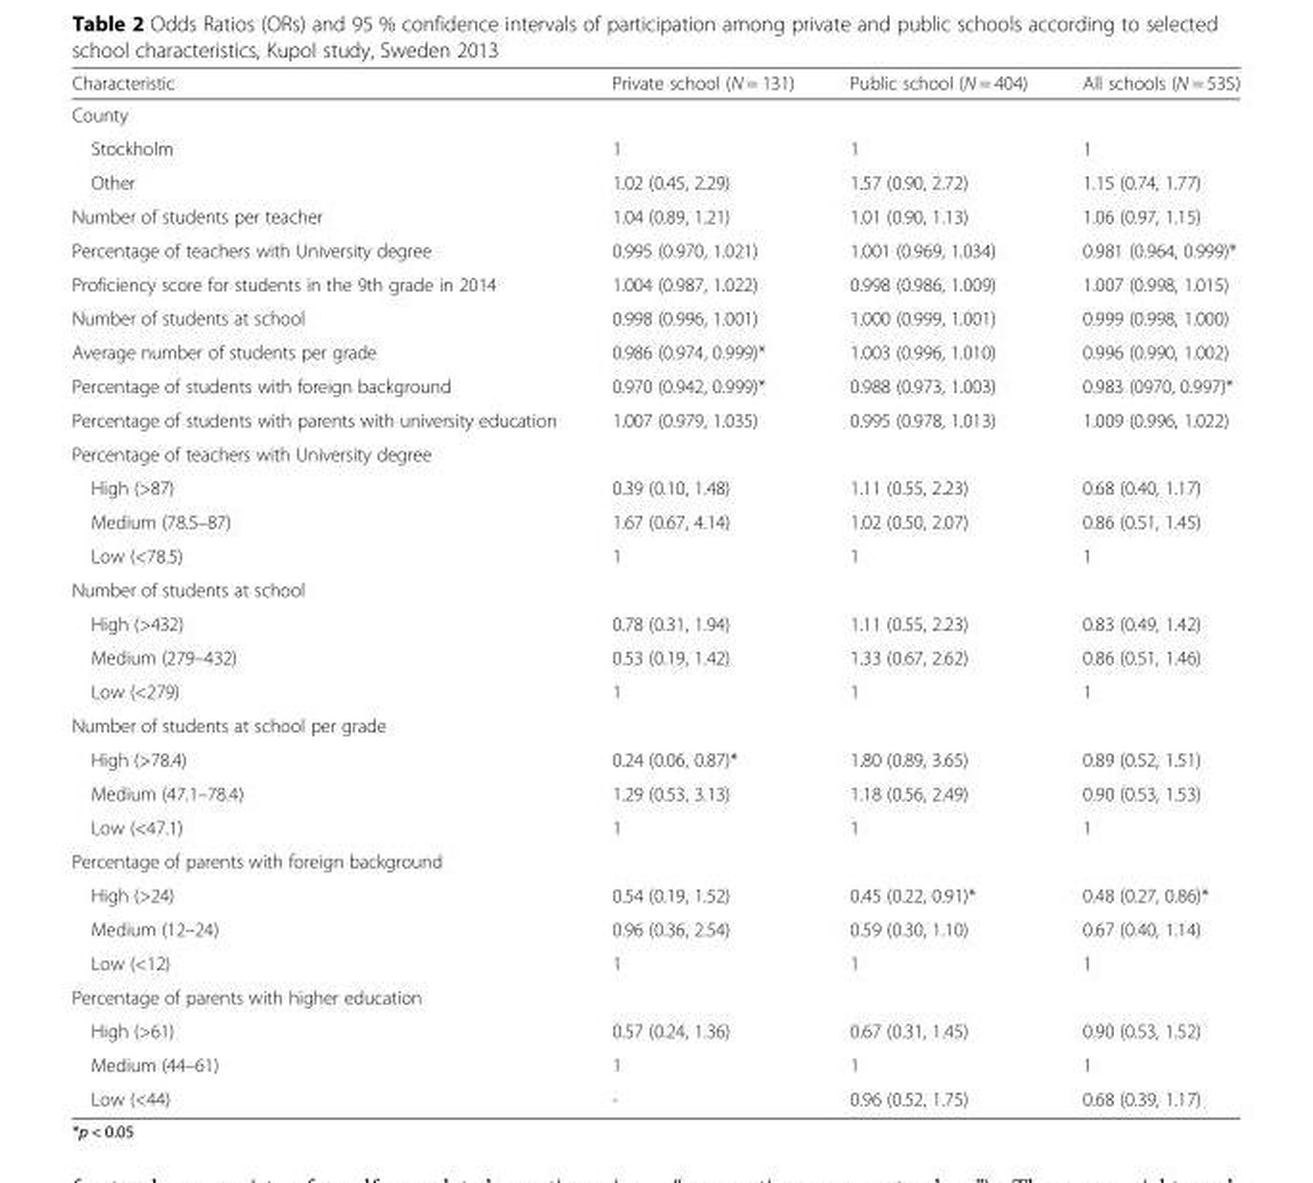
<table><thead><tr><td>Characteristic</td><td>Private school (N = 131)</td><td>Public school (N = 404)</td><td>All schools (N = 535)</td></tr></thead><tbody><tr><td colspan="4">County</td></tr><tr><td>Stockholm</td><td>1</td><td>1</td><td>1</td></tr><tr><td>Other</td><td>1.02 (0.45, 2.29)</td><td>1.57 (0.90, 2.72)</td><td>1.15 (0.74, 1.77)</td></tr><tr><td>Number of students per teacher</td><td>1.04 (0.89, 1.21)</td><td>1.01 (0.90, 1.13)</td><td>1.06 (0.97, 1.15)</td></tr><tr><td>Percentage of teachers with University degree</td><td>0.995 (0.970, 1.021)</td><td>1.001 (0.969, 1.034)</td><td>0.981 (0.964, 0.999)*</td></tr><tr><td>Proficiency score for students in the 9th grade in 2014</td><td>1.004 (0.987, 1.022)</td><td>0.998 (0.986, 1.009)</td><td>1.007 (0.998, 1.015)</td></tr><tr><td>Number of students at school</td><td>0.998 (0.996, 1.001)</td><td>1.000 (0.999, 1.001)</td><td>0.999 (0.998, 1.000)</td></tr><tr><td>Average number of students per grade</td><td>0.986 (0.974, 0.999)*</td><td>1.003 (0.996, 1.010)</td><td>0.996 (0.990, 1.002)</td></tr><tr><td>Percentage of students with foreign background</td><td>0.970 (0.942, 0.999)*</td><td>0.988 (0.973, 1.003)</td><td>0.983 (0970, 0.997)*</td></tr><tr><td>Percentage of students with parents with university education</td><td>1.007 (0.979, 1.035)</td><td>0.995 (0.978, 1.013)</td><td>1.009 (0.996, 1.022)</td></tr><tr><td colspan="4">Percentage of teachers with University degree</td></tr><tr><td>High (&gt;87)</td><td>0.39 (0.10, 1.48)</td><td>1.11 (0.55, 2.23)</td><td>0.68 (0.40, 1.17)</td></tr><tr><td>Medium (78.5–87)</td><td>1.67 (0.67, 4.14)</td><td>1.02 (0.50, 2.07)</td><td>0.86 (0.51, 1.45)</td></tr><tr><td>Low (&lt;78.5)</td><td>1</td><td>1</td><td>1</td></tr><tr><td colspan="4">Number of students at school</td></tr><tr><td>High (&gt;432)</td><td>0.78 (0.31, 1.94)</td><td>1.11 (0.55, 2.23)</td><td>0.83 (0.49, 1.42)</td></tr><tr><td>Medium (279–432)</td><td>0.53 (0.19, 1.42)</td><td>1.33 (0.67, 2.62)</td><td>0.86 (0.51, 1.46)</td></tr><tr><td>Low (&lt;279)</td><td>1</td><td>1</td><td>1</td></tr><tr><td colspan="4">Number of students at school per grade</td></tr><tr><td>High (&gt;78.4)</td><td>0.24 (0.06, 0.87)*</td><td>1.80 (0.89, 3.65)</td><td>0.89 (0.52, 1.51)</td></tr><tr><td>Medium (47.1–78.4)</td><td>1.29 (0.53, 3.13)</td><td>1.18 (0.56, 2.49)</td><td>0.90 (0.53, 1.53)</td></tr><tr><td>Low (&lt;47.1)</td><td>1</td><td>1</td><td>1</td></tr><tr><td colspan="4">Percentage of parents with foreign background</td></tr><tr><td>High (&gt;24)</td><td>0.54 (0.19, 1.52)</td><td>0.45 (0.22, 0.91)*</td><td>0.48 (0.27, 0.86)*</td></tr><tr><td>Medium (12–24)</td><td>0.96 (0.36, 2.54)</td><td>0.59 (0.30, 1.10)</td><td>0.67 (0.40, 1.14)</td></tr><tr><td>Low (&lt;12)</td><td>1</td><td>1</td><td>1</td></tr><tr><td colspan="4">Percentage of parents with higher education</td></tr><tr><td>High (&gt;61)</td><td>0.57 (0.24, 1.36)</td><td>0.67 (0.31, 1.45)</td><td>0.90 (0.53, 1.52)</td></tr><tr><td>Medium (44–61)</td><td>1</td><td>1</td><td>1</td></tr><tr><td>Low (&lt;44)</td><td>-</td><td>0.96 (0.52, 1.75)</td><td>0.68 (0.39, 1.17)</td></tr></tbody></table>